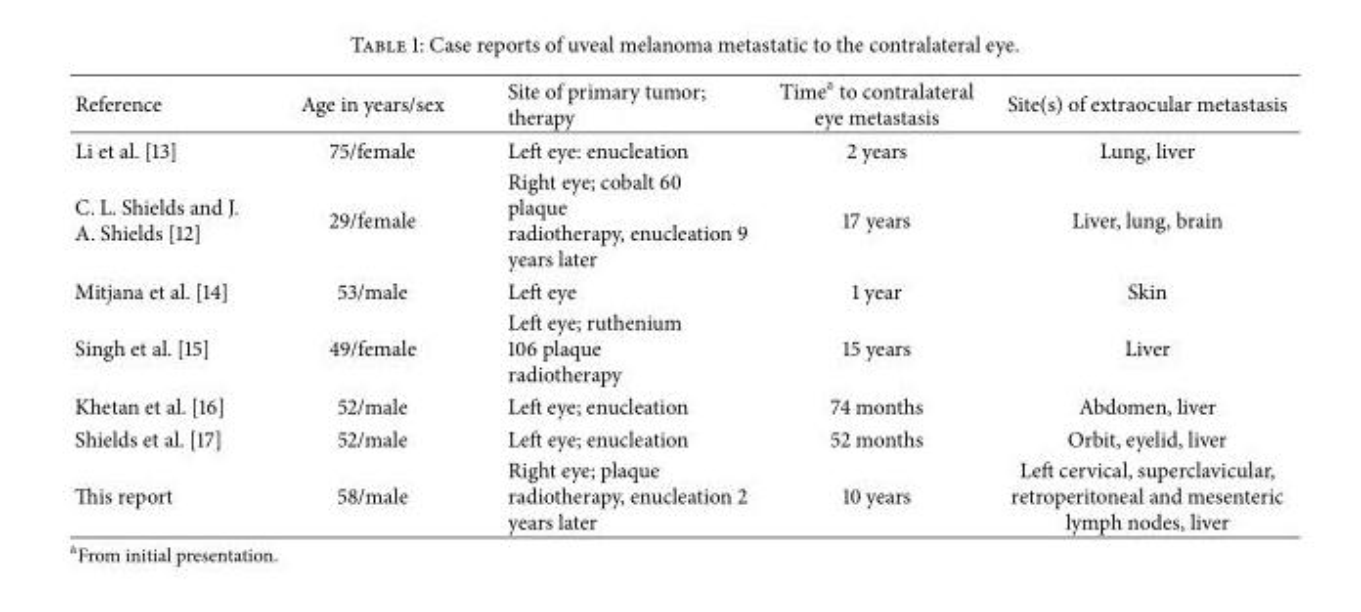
<table><thead><tr><td>Reference</td><td>Age in years/sex</td><td>Site of primary tumor; therapy</td><td>Time<sup>a</sup> to contralateral eye metastasis</td><td>Site(s) of extraocular metastasis</td></tr></thead><tbody><tr><td>Li et al. [13]</td><td>75/female</td><td>Left eye: enucleation</td><td>2 years</td><td>Lung, liver</td></tr><tr><td>C. L. Shields and J. A. Shields [12]</td><td>29/female</td><td>Right eye; cobalt 60 plaque radiotherapy, enucleation 9 years later</td><td>17 years</td><td>Liver, lung, brain</td></tr><tr><td>Mitjana et al. [14]</td><td>53/male</td><td>Left eye</td><td>1 year</td><td>Skin</td></tr><tr><td>Singh et al. [15]</td><td>49/female</td><td>Left eye; ruthenium 106 plaque radiotherapy</td><td>15 years</td><td>Liver</td></tr><tr><td>Khetan et al. [16]</td><td>52/male</td><td>Left eye; enucleation</td><td>74 months</td><td>Abdomen, liver</td></tr><tr><td>Shields et al. [17]</td><td>52/male</td><td>Left eye; enucleation</td><td>52 months</td><td>Orbit, eyelid, liver</td></tr><tr><td>This report</td><td>58/male</td><td>Right eye; plaque radiotherapy, enucleation 2 years later</td><td>10 years</td><td>Left cervical, superclavicular, retroperitoneal and mesenteric lymph nodes, liver</td></tr></tbody></table>